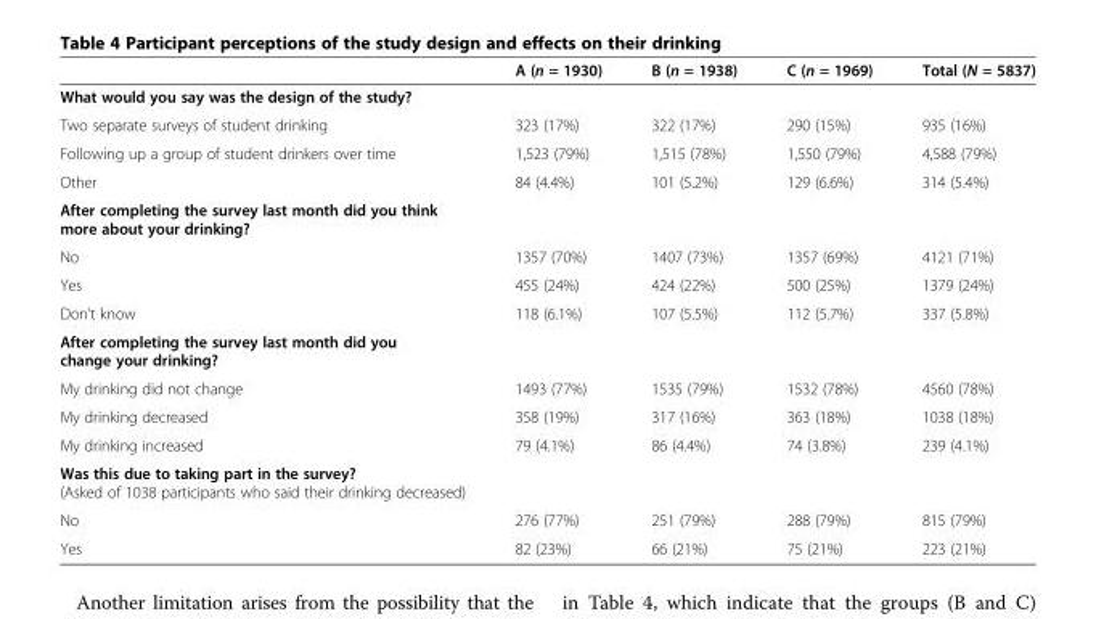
<table><thead><tr><td></td><td>A (n = 1930)</td><td>B (n = 1938)</td><td>C (n = 1969)</td><td>Total (N = 5837)</td></tr></thead><tbody><tr><td colspan="5">What would you say was the design of the study?</td></tr><tr><td>Two separate surveys of student drinking</td><td>323 (17%)</td><td>322 (17%)</td><td>290 (15%)</td><td>935 (16%)</td></tr><tr><td>Following up a group of student drinkers over time</td><td>1,523 (79%)</td><td>1,515 (78%)</td><td>1,550 (79%)</td><td>4,588 (79%)</td></tr><tr><td>Other</td><td>84 (4.4%)</td><td>101 (5.2%)</td><td>129 (6.6%)</td><td>314 (5.4%)</td></tr><tr><td colspan="5">After completing the survey last month did you think more about your drinking?</td></tr><tr><td>No</td><td>1357 (70%)</td><td>1407 (73%)</td><td>1357 (69%)</td><td>4121 (71%)</td></tr><tr><td>Yes</td><td>455 (24%)</td><td>424 (22%)</td><td>500 (25%)</td><td>1379 (24%)</td></tr><tr><td>Don’t know</td><td>118 (6.1%)</td><td>107 (5.5%)</td><td>112 (5.7%)</td><td>337 (5.8%)</td></tr><tr><td colspan="5">After completing the survey last month did you change your drinking?</td></tr><tr><td>My drinking did not change</td><td>1493 (77%)</td><td>1535 (79%)</td><td>1532 (78%)</td><td>4560 (78%)</td></tr><tr><td>My drinking decreased</td><td>358 (19%)</td><td>317 (16%)</td><td>363 (18%)</td><td>1038 (18%)</td></tr><tr><td>My drinking increased</td><td>79 (4.1%)</td><td>86 (4.4%)</td><td>74 (3.8%)</td><td>239 (4.1%)</td></tr><tr><td colspan="5">Was this due to taking part in the survey? (Asked of 1038 participants who said their drinking decreased)</td></tr><tr><td>No</td><td>276 (77%)</td><td>251 (79%)</td><td>288 (79%)</td><td>815 (79%)</td></tr><tr><td>Yes</td><td>82 (23%)</td><td>66 (21%)</td><td>75 (21%)</td><td>223 (21%)</td></tr></tbody></table>